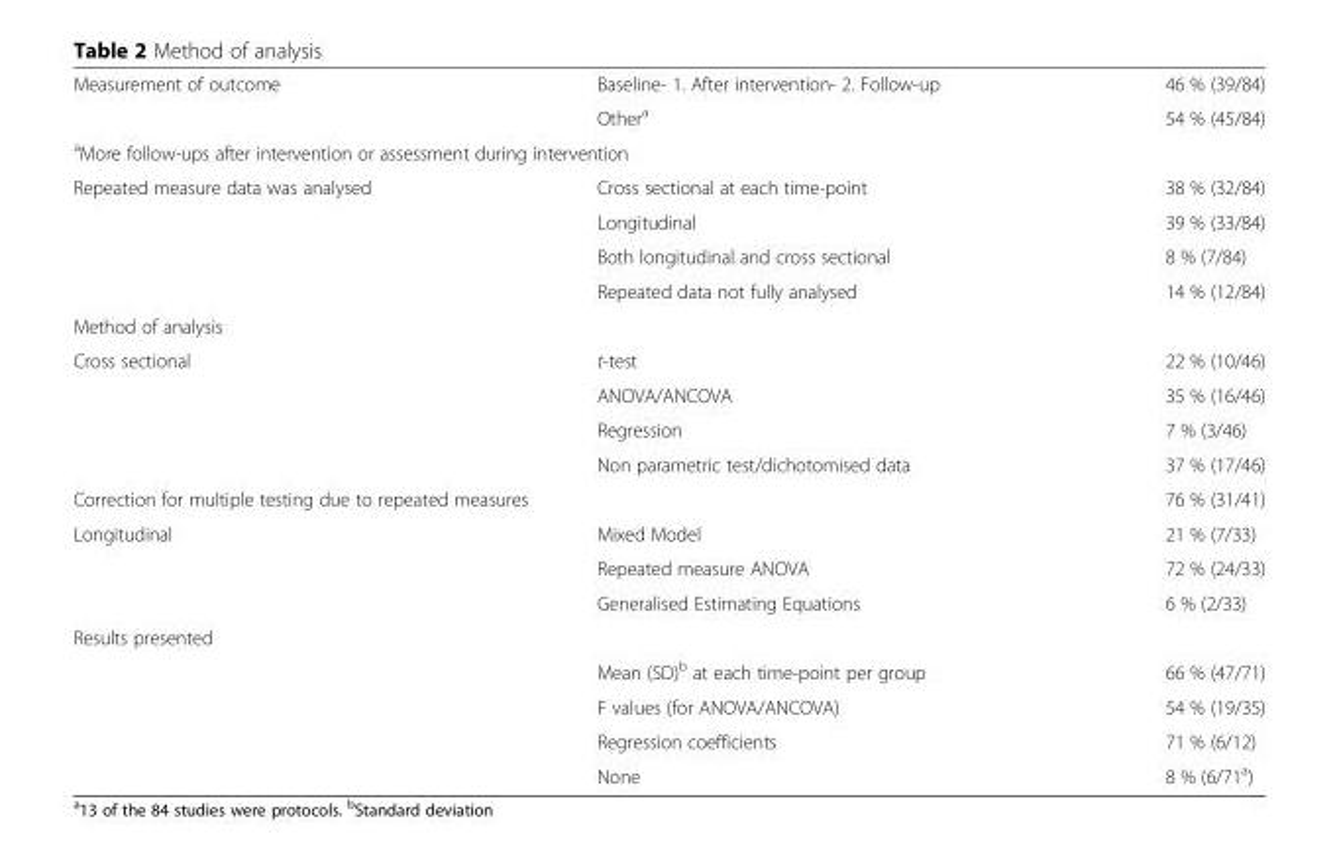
<table><tbody><tr><td rowspan="2">Measurement of outcome</td><td>Baseline- 1. After intervention- 2. Follow-up</td><td>46 % (39/84)</td></tr><tr><td>Other<sup>a</sup></td><td>54 % (45/84)</td></tr><tr><td colspan="3"><sup>a</sup>More follow-ups after intervention or assessment during intervention</td></tr><tr><td rowspan="4">Repeated measure data was analysed</td><td>Cross sectional at each time-point</td><td>38 % (32/84)</td></tr><tr><td>Longitudinal</td><td>39 % (33/84)</td></tr><tr><td>Both longitudinal and cross sectional</td><td>8 % (7/84)</td></tr><tr><td>Repeated data not fully analysed</td><td>14 % (12/84)</td></tr><tr><td colspan="3">Method of analysis</td></tr><tr><td rowspan="4">Cross sectional</td><td>t-test</td><td>22 % (10/46)</td></tr><tr><td>ANOVA/ANCOVA</td><td>35 % (16/46)</td></tr><tr><td>Regression</td><td>7 % (3/46)</td></tr><tr><td>Non parametric test/dichotomised data</td><td>37 % (17/46)</td></tr><tr><td colspan="2">Correction for multiple testing due to repeated measures</td><td>76 % (31/41)</td></tr><tr><td rowspan="3">Longitudinal</td><td>Mixed Model</td><td>21 % (7/33)</td></tr><tr><td>Repeated measure ANOVA</td><td>72 % (24/33)</td></tr><tr><td>Generalised Estimating Equations</td><td>6 % (2/33)</td></tr><tr><td colspan="3">Results presented</td></tr><tr><td></td><td>Mean (SD)<sup>b</sup> at each time-point per group</td><td>66 % (47/71)</td></tr><tr><td></td><td>F values (for ANOVA/ANCOVA)</td><td>54 % (19/35)</td></tr><tr><td></td><td>Regression coefficients</td><td>71 % (6/12)</td></tr><tr><td></td><td>None</td><td>8 % (6/71<sup>a</sup>)</td></tr></tbody></table>